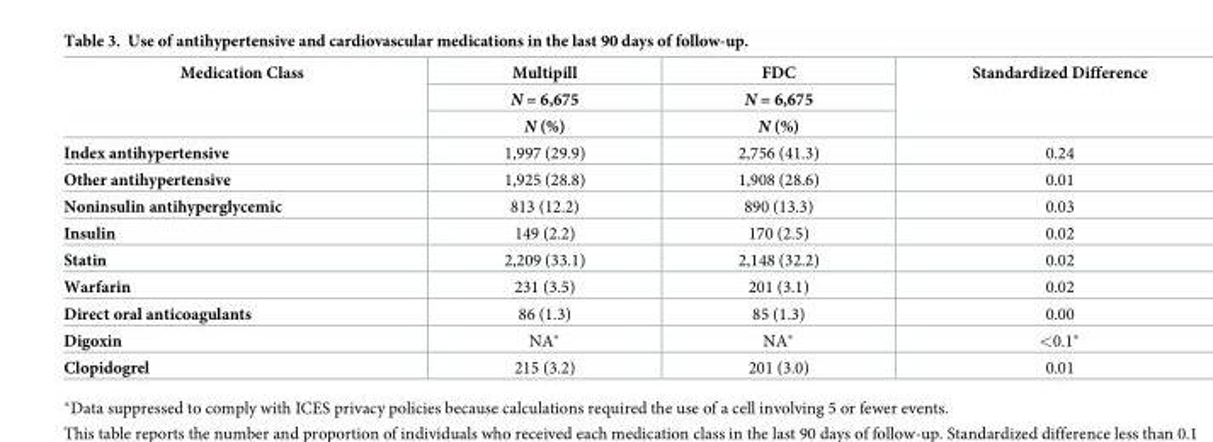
<table><thead><tr><td rowspan="3">Medication Class</td><td rowspan="3">Multipill N = 6,675 N (%)</td><td rowspan="3">FDC N = 6,675 N (%)</td><td rowspan="3">Standardized Difference</td></tr><tr></tr><tr></tr></thead><tbody><tr><td>Index antihypertensive</td><td>1,997 (29.9)</td><td>2,756 (41.3)</td><td>0.24</td></tr><tr><td>Other antihypertensive</td><td>1,925 (28.8)</td><td>1,908 (28.6)</td><td>0.01</td></tr><tr><td>Noninsulin antihyperglycemic</td><td>813 (12.2)</td><td>890 (13.3)</td><td>0.03</td></tr><tr><td>Insulin</td><td>149 (2.2)</td><td>170 (2.5)</td><td>0.02</td></tr><tr><td>Statin</td><td>2,209 (33.1)</td><td>2,148 (32.2)</td><td>0.02</td></tr><tr><td>Warfarin</td><td>231 (3.5)</td><td>201 (3.1)</td><td>0.02</td></tr><tr><td>Direct oral anticoagulants</td><td>86 (1.3)</td><td>85 (1.3)</td><td>0.00</td></tr><tr><td>Digoxin</td><td>NA*</td><td>NA*</td><td>&lt;0.1*</td></tr><tr><td>Clopidogrel</td><td>215 (3.2)</td><td>201 (3.0)</td><td>0.01</td></tr></tbody></table>